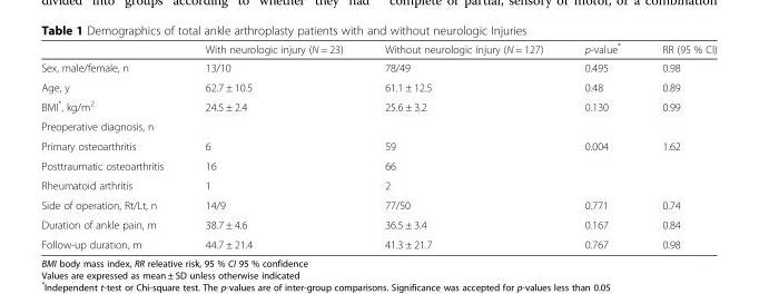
<table><thead><tr><td></td><td>With neurologic injury (N = 23)</td><td>Without neurologic injury (N = 127)</td><td>p-value*</td><td>RR (95 % CI)</td></tr></thead><tbody><tr><td>Sex, male/female, n</td><td>13/10</td><td>78/49</td><td>0.495</td><td>0.98</td></tr><tr><td>Age, y</td><td>62.7 ± 10.5</td><td>61.1 ± 12.5</td><td>0.48</td><td>0.89</td></tr><tr><td>BMI*, kg/m<sup>2</sup></td><td>24.5 ± 2.4</td><td>25.6 ± 3.2</td><td>0.130</td><td>0.99</td></tr><tr><td colspan="5">Preoperative diagnosis, n</td></tr><tr><td>Primary osteoarthritis</td><td>6</td><td>59</td><td>0.004</td><td>1.62</td></tr><tr><td>Posttraumatic osteoarthritis</td><td>16</td><td>66</td><td></td><td></td></tr><tr><td>Rheumatoid arthritis</td><td>1</td><td>2</td><td></td><td></td></tr><tr><td>Side of operation, Rt/Lt, n</td><td>14/9</td><td>77/50</td><td>0.771</td><td>0.74</td></tr><tr><td>Duration of ankle pain, m</td><td>38.7 ± 4.6</td><td>36.5 ± 3.4</td><td>0.167</td><td>0.84</td></tr><tr><td>Follow-up duration, m</td><td>44.7 ± 21.4</td><td>41.3 ± 21.7</td><td>0.767</td><td>0.98</td></tr></tbody></table>